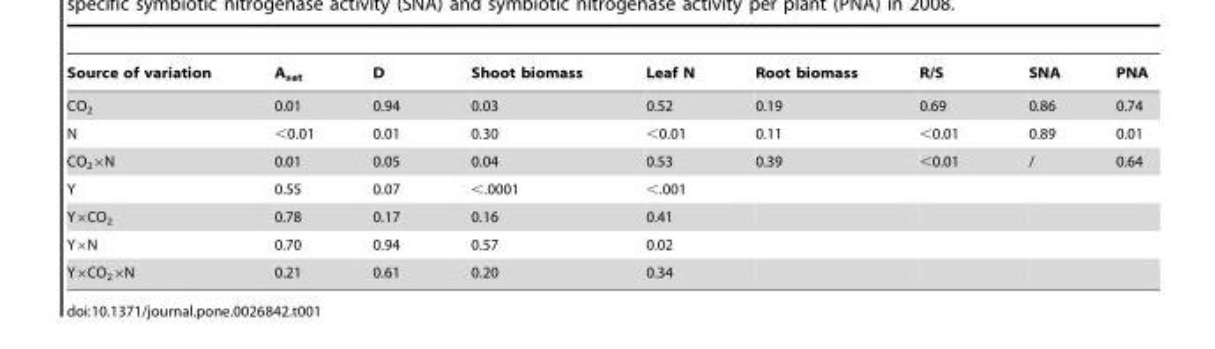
<table><thead><tr><td>Source of variation</td><td>A<sub>sat</sub></td><td>D</td><td>Shoot biomass</td><td>Leaf N</td><td>Root biomass</td><td>R/S</td><td>SNA</td><td>PNA</td></tr></thead><tbody><tr><td>CO<sub>2</sub></td><td>0.01</td><td>0.94</td><td>0.03</td><td>0.52</td><td>0.19</td><td>0.69</td><td>0.86</td><td>0.74</td></tr><tr><td>N</td><td>&lt;0.01</td><td>0.01</td><td>0.30</td><td>&lt;0.01</td><td>0.11</td><td>&lt;0.01</td><td>0.89</td><td>0.01</td></tr><tr><td>CO<sub>2</sub>×N</td><td>0.01</td><td>0.05</td><td>0.04</td><td>0.53</td><td>0.39</td><td>&lt;0.01</td><td>/</td><td>0.64</td></tr><tr><td>Y</td><td>0.55</td><td>0.07</td><td>&lt;.0001</td><td>&lt;.001</td><td></td><td></td><td></td><td></td></tr><tr><td>Y×CO<sub>2</sub></td><td>0.78</td><td>0.17</td><td>0.16</td><td>0.41</td><td></td><td></td><td></td><td></td></tr><tr><td>Y×N</td><td>0.70</td><td>0.94</td><td>0.57</td><td>0.02</td><td></td><td></td><td></td><td></td></tr><tr><td>Y×CO<sub>2</sub>×N</td><td>0.21</td><td>0.61</td><td>0.20</td><td>0.34</td><td></td><td></td><td></td><td></td></tr></tbody></table>